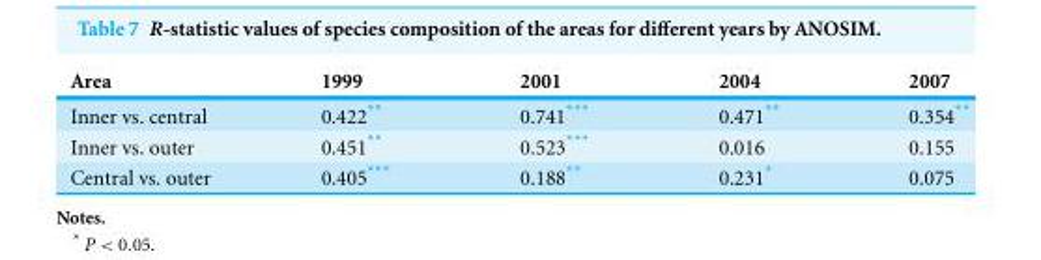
<table><thead><tr><td>Area</td><td>1999</td><td>2001</td><td>2004</td><td>2007</td></tr></thead><tbody><tr><td>Inner vs. central</td><td>0.422**</td><td>0.741***</td><td>0.471**</td><td>0.354**</td></tr><tr><td>Inner vs. outer</td><td>0.451**</td><td>0.523***</td><td>0.016</td><td>0.155</td></tr><tr><td>Central vs. outer</td><td>0.405***</td><td>0.188**</td><td>0.231*</td><td>0.075</td></tr></tbody></table>